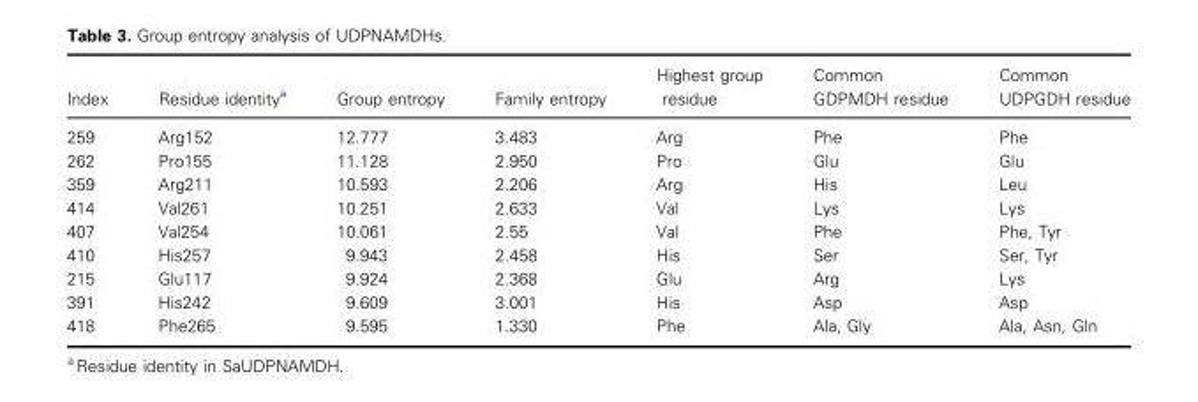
<table><thead><tr><td>Index</td><td>Residue identity<sup>a</sup></td><td>Group entropy</td><td>Family entropy</td><td>Highest group residue</td><td>Common GDPMDH residue</td><td>Common UDPGDH residue</td></tr></thead><tbody><tr><td>259</td><td>Arg152</td><td>12.777</td><td>3.483</td><td>Arg</td><td>Phe</td><td>Phe</td></tr><tr><td>262</td><td>Pro155</td><td>11.128</td><td>2.950</td><td>Pro</td><td>Glu</td><td>Glu</td></tr><tr><td>359</td><td>Arg211</td><td>10.593</td><td>2.206</td><td>Arg</td><td>His</td><td>Leu</td></tr><tr><td>414</td><td>Val261</td><td>10.251</td><td>2.633</td><td>Val</td><td>Lys</td><td>Lys</td></tr><tr><td>407</td><td>Val254</td><td>10.061</td><td>2.55</td><td>Val</td><td>Phe</td><td>Phe, Tyr</td></tr><tr><td>410</td><td>His257</td><td>9.943</td><td>2.458</td><td>His</td><td>Ser</td><td>Ser, Tyr</td></tr><tr><td>215</td><td>Glu117</td><td>9.924</td><td>2.368</td><td>Glu</td><td>Arg</td><td>Lys</td></tr><tr><td>391</td><td>His242</td><td>9.609</td><td>3.001</td><td>His</td><td>Asp</td><td>Asp</td></tr><tr><td>418</td><td>Phe265</td><td>9.595</td><td>1.330</td><td>Phe</td><td>Ala, Gly</td><td>Ala, Asn, Gln</td></tr></tbody></table>